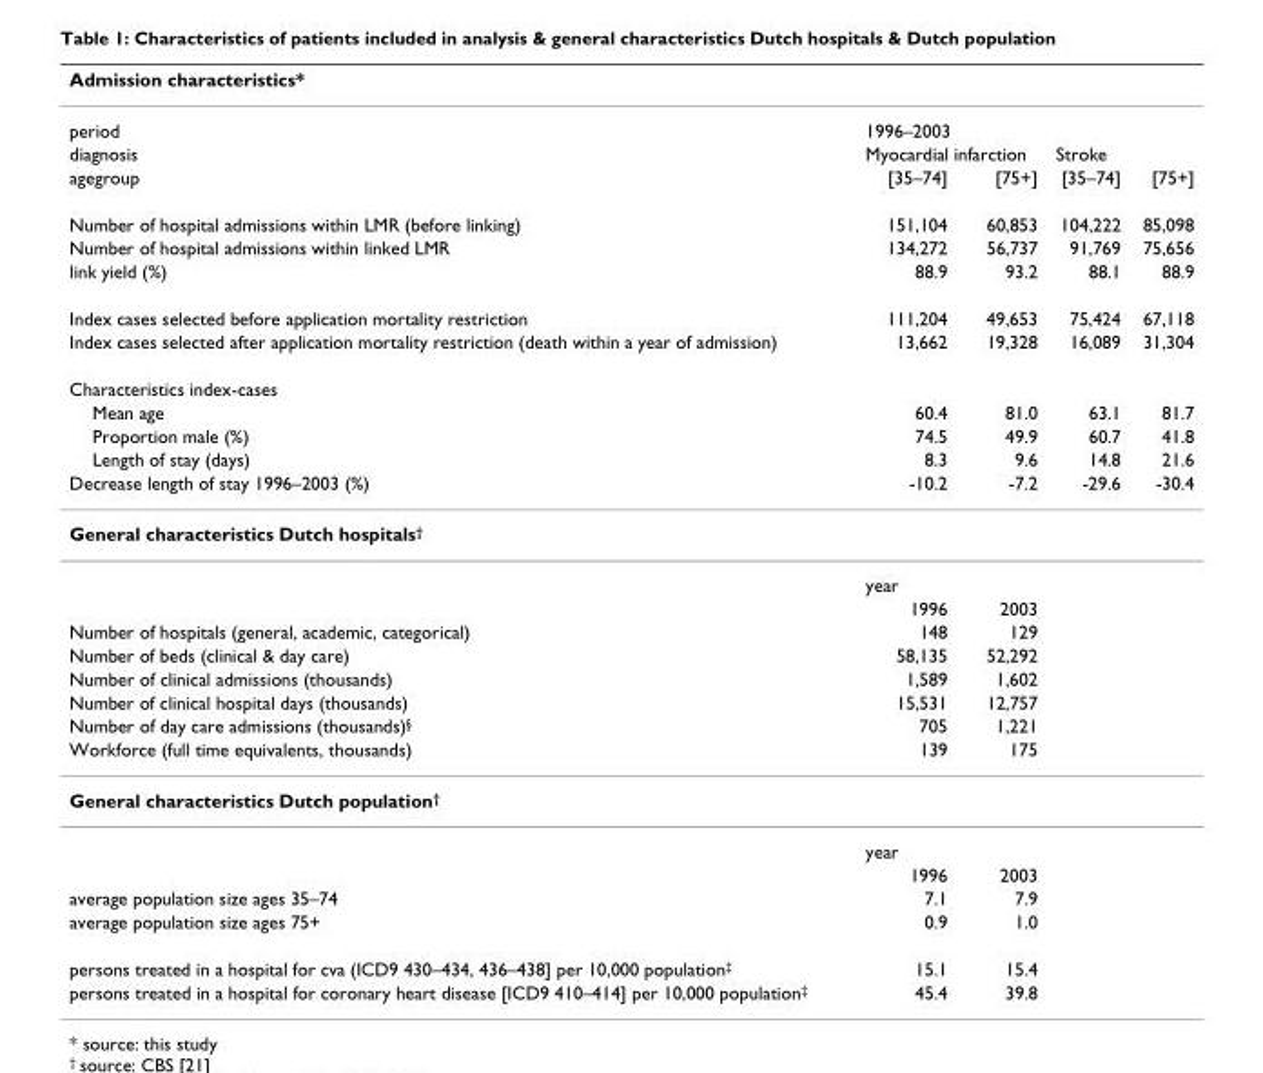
<table><thead><tr><td colspan="5">Admission characteristics*</td></tr><tr><td rowspan="3">period diagnosis agegroup</td><td colspan="4">1996–2003</td></tr><tr><td colspan="2">Myocardial infarction</td><td colspan="2">Stroke</td></tr><tr><td>[35–74]</td><td>[75+]</td><td>[35–74]</td><td>[75+]</td></tr></thead><tbody><tr><td>Number of hospital admissions within LMR (before linking)</td><td>151,104</td><td>60,853</td><td>104,222</td><td>85,098</td></tr><tr><td>Number of hospital admissions within linked LMR</td><td>134,272</td><td>56,737</td><td>91,769</td><td>75,656</td></tr><tr><td>link yield (%)</td><td>88.9</td><td>93.2</td><td>88.1</td><td>88.9</td></tr><tr><td>Index cases selected before application mortality restriction</td><td>111,204</td><td>49,653</td><td>75,424</td><td>67,118</td></tr><tr><td>Index cases selected after application mortality restriction (death within a year of admission)</td><td>13,662</td><td>19,328</td><td>16,089</td><td>31,304</td></tr><tr><td colspan="5">Characteristics index-cases</td></tr><tr><td>Mean age</td><td>60.4</td><td>81.0</td><td>63.1</td><td>81.7</td></tr><tr><td>Proportion male (%)</td><td>74.5</td><td>49.9</td><td>60.7</td><td>41.8</td></tr><tr><td>Length of stay (days)</td><td>8.3</td><td>9.6</td><td>14.8</td><td>21.6</td></tr><tr><td>Decrease length of stay 1996–2003 (%)</td><td>-10.2</td><td>-7.2</td><td>-29.6</td><td>-30.4</td></tr><tr><td colspan="5">General characteristics Dutch hospitals<sup>†</sup></td></tr><tr><td></td><td colspan="4">year</td></tr><tr><td></td><td>1996</td><td>2003</td><td></td><td></td></tr><tr><td>Number of hospitals (general, academic, categorical)</td><td>148</td><td>129</td><td></td><td></td></tr><tr><td>Number of beds (clinical &amp; day care)</td><td>58,135</td><td>52,292</td><td></td><td></td></tr><tr><td>Number of clinical admissions (thousands)</td><td>1,589</td><td>1,602</td><td></td><td></td></tr><tr><td>Number of clinical hospital days (thousands)</td><td>15,531</td><td>12,757</td><td></td><td></td></tr><tr><td>Number of day care admissions (thousands)<sup>§</sup></td><td>705</td><td>1,221</td><td></td><td></td></tr><tr><td>Workforce (full time equivalents, thousands)</td><td>139</td><td>175</td><td></td><td></td></tr><tr><td colspan="5">General characteristics Dutch population<sup>†</sup></td></tr><tr><td></td><td colspan="4">year</td></tr><tr><td></td><td>1996</td><td>2003</td><td></td><td></td></tr><tr><td>average population size ages 35–74</td><td>7.1</td><td>7.9</td><td></td><td></td></tr><tr><td>average population size ages 75+</td><td>0.9</td><td>1.0</td><td></td><td></td></tr><tr><td>persons treated in a hospital for cva (ICD9 430–434, 436–438] per 10,000 population<sup>‡</sup></td><td>15.1</td><td>15.4</td><td></td><td></td></tr><tr><td>persons treated in a hospital for coronary heart disease [ICD9 410–414] per 10,000 population<sup>‡</sup></td><td>45.4</td><td>39.8</td><td></td><td></td></tr></tbody></table>